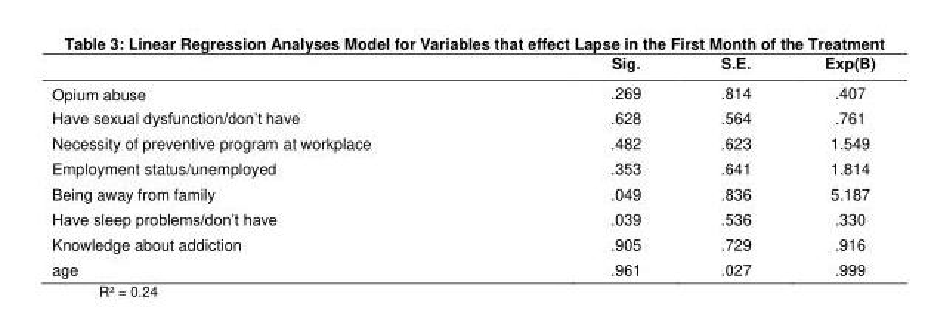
<table><thead><tr><td></td><td>Sig.</td><td>S.E.</td><td>Exp(B)</td></tr></thead><tbody><tr><td>Opium abuse</td><td>.269</td><td>.814</td><td>.407</td></tr><tr><td>Have‎sexual‎dysfunction/don’t‎have</td><td>.628</td><td>.564</td><td>.761</td></tr><tr><td>Necessity of preventive program at workplace</td><td>.482</td><td>.623</td><td>1.549</td></tr><tr><td>Employment status/unemployed</td><td>.353</td><td>.641</td><td>1.814</td></tr><tr><td>Being away from family</td><td>.049</td><td>.836</td><td>5.187</td></tr><tr><td>Have‎sleep‎problems/don’t‎have</td><td>.039</td><td>.536</td><td>.330</td></tr><tr><td>Knowledge about addiction</td><td>.905</td><td>.729</td><td>.916</td></tr><tr><td>age</td><td>.961</td><td>.027</td><td>.999</td></tr></tbody></table>